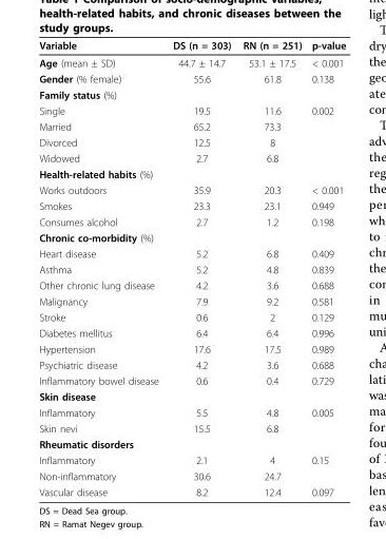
<table><thead><tr><td>Variable</td><td>DS (n = 303)</td><td>RN (n = 251)</td><td>p-value</td></tr></thead><tbody><tr><td>Age (mean ± SD)</td><td>44.7 ± 14.7</td><td>53.1 ± 17.5</td><td>&lt; 0.001</td></tr><tr><td>Gender (% female)</td><td>55.6</td><td>61.8</td><td>0.138</td></tr><tr><td colspan="4">Family status (%)</td></tr><tr><td>Single</td><td>19.5</td><td>11.6</td><td>0.002</td></tr><tr><td>Married</td><td>65.2</td><td>73.3</td><td></td></tr><tr><td>Divorced</td><td>12.5</td><td>8</td><td></td></tr><tr><td>Widowed</td><td>2.7</td><td>6.8</td><td></td></tr><tr><td colspan="4">Health-related habits (%)</td></tr><tr><td>Works outdoors</td><td>35.9</td><td>20.3</td><td>&lt; 0.001</td></tr><tr><td>Smokes</td><td>23.3</td><td>23.1</td><td>0.949</td></tr><tr><td>Consumes alcohol</td><td>2.7</td><td>1.2</td><td>0.198</td></tr><tr><td colspan="4">Chronic co-morbidity (%)</td></tr><tr><td>Heart disease</td><td>5.2</td><td>6.8</td><td>0.409</td></tr><tr><td>Asthma</td><td>5.2</td><td>4.8</td><td>0.839</td></tr><tr><td>Other chronic lung disease</td><td>4.2</td><td>3.6</td><td>0.688</td></tr><tr><td>Malignancy</td><td>7.9</td><td>9.2</td><td>0.581</td></tr><tr><td>Stroke</td><td>0.6</td><td>2</td><td>0.129</td></tr><tr><td>Diabetes mellitus</td><td>6.4</td><td>6.4</td><td>0.996</td></tr><tr><td>Hypertension</td><td>17.6</td><td>17.5</td><td>0.989</td></tr><tr><td>Psychiatric disease</td><td>4.2</td><td>3.6</td><td>0.688</td></tr><tr><td>Inflammatory bowel disease</td><td>0.6</td><td>0.4</td><td>0.729</td></tr><tr><td colspan="4">Skin disease</td></tr><tr><td>Inflammatory</td><td>5.5</td><td>4.8</td><td>0.005</td></tr><tr><td>Skin nevi</td><td>15.5</td><td>6.8</td><td></td></tr><tr><td colspan="4">Rheumatic disorders</td></tr><tr><td>Inflammatory</td><td>2.1</td><td>4</td><td>0.15</td></tr><tr><td>Non-inflammatory</td><td>30.6</td><td>24.7</td><td></td></tr><tr><td>Vascular disease</td><td>8.2</td><td>12.4</td><td>0.097</td></tr></tbody></table>